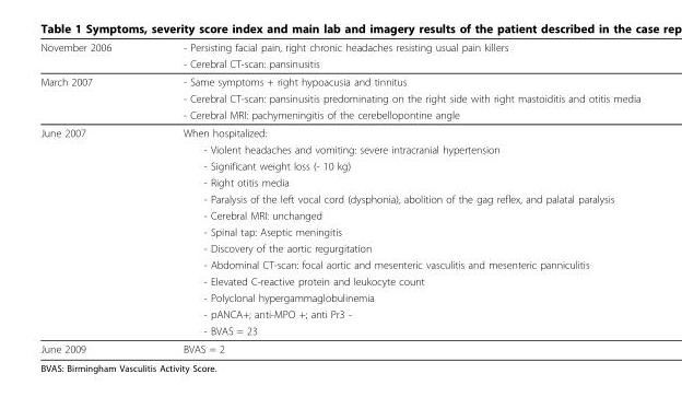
<table><thead><tr><td rowspan="2">November 2006</td><td rowspan="2">- Persisting facial pain, right chronic headaches resisting usual pain killers - Cerebral CT-scan: pansinusitis</td></tr><tr></tr></thead><tbody><tr><td rowspan="3">March 2007</td><td>- Same symptoms + right hypoacusia and tinnitus</td></tr><tr><td>- Cerebral CT-scan: pansinusitis predominating on the right side with right mastoiditis and otitis media</td></tr><tr><td>- Cerebral MRI: pachymeningitis of the cerebellopontine angle</td></tr><tr><td rowspan="13">June 2007</td><td>When hospitalized:</td></tr><tr><td>- Violent headaches and vomiting: severe intracranial hypertension</td></tr><tr><td>- Significant weight loss (- 10 kg)</td></tr><tr><td>- Right otitis media</td></tr><tr><td>- Paralysis of the left vocal cord (dysphonia), abolition of the gag reflex, and palatal paralysis</td></tr><tr><td>- Cerebral MRI: unchanged</td></tr><tr><td>- Spinal tap: Aseptic meningitis</td></tr><tr><td>- Discovery of the aortic regurgitation</td></tr><tr><td>- Abdominal CT-scan: focal aortic and mesenteric vasculitis and mesenteric panniculitis</td></tr><tr><td>- Elevated C-reactive protein and leukocyte count</td></tr><tr><td>- Polyclonal hypergammaglobulinemia</td></tr><tr><td>- pANCA+; anti-MPO +; anti Pr3 -</td></tr><tr><td>- BVAS = 23</td></tr><tr><td>June 2009</td><td>BVAS = 2</td></tr></tbody></table>